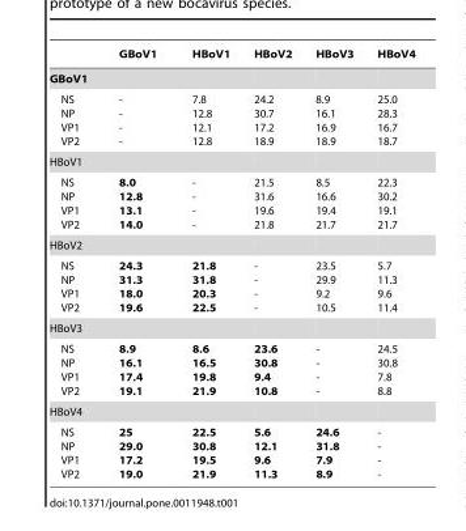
<table><thead><tr><td></td><td>GBoV1</td><td>HBoV1</td><td>HBoV2</td><td>HBoV3</td><td>HBoV4</td></tr></thead><tbody><tr><td colspan="6">GBoV1</td></tr><tr><td>NS NP VP1 VP2</td><td>- - - -</td><td>7.8 12.8 12.1 12.8</td><td>24.2 30.7 17.2 18.9</td><td>8.9 16.1 16.9 18.9</td><td>25.0 28.3 16.7 18.7</td></tr><tr><td colspan="6">HBoV1</td></tr><tr><td>NS NP VP1 VP2</td><td>8.0 12.8 13.1 14.0</td><td>- - - -</td><td>21.5 31.6 19.6 21.8</td><td>8.5 16.6 19.4 21.7</td><td>22.3 30.2 19.1 21.7</td></tr><tr><td colspan="6">HBoV2</td></tr><tr><td>NS NP VP1 VP2</td><td>24.3 31.3 18.0 19.6</td><td>21.8 31.8 20.3 22.5</td><td>- - - -</td><td>23.5 29.9 9.2 10.5</td><td>5.7 11.3 9.6 11.4</td></tr><tr><td colspan="6">HBoV3</td></tr><tr><td>NS NP VP1 VP2</td><td>8.9 16.1 17.4 19.1</td><td>8.6 16.5 19.8 21.9</td><td>23.6 30.8 9.4 10.8</td><td>- - - -</td><td>24.5 30.8 7.8 8.8</td></tr><tr><td colspan="6">HBoV4</td></tr><tr><td>NS NP VP1 VP2</td><td>25 29.0 17.2 19.0</td><td>22.5 30.8 19.5 21.9</td><td>5.6 12.1 9.6 11.3</td><td>24.6 31.8 7.9 8.9</td><td>- - - -</td></tr></tbody></table>